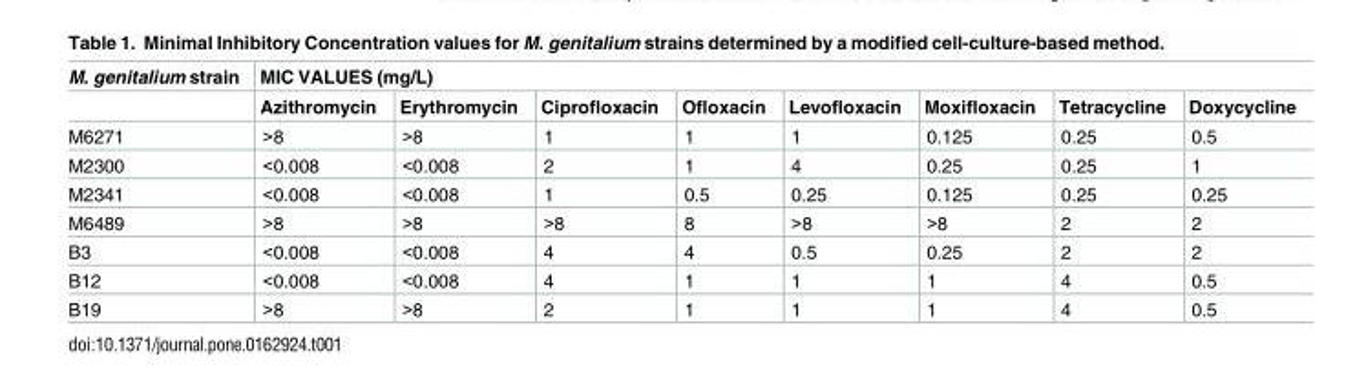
<table><thead><tr><td rowspan="2">M. genitalium strain</td><td colspan="8">MIC VALUES (mg/L)</td></tr><tr><td>Azithromycin</td><td>Erythromycin</td><td>Ciprofloxacin</td><td>Ofloxacin</td><td>Levofloxacin</td><td>Moxifloxacin</td><td>Tetracycline</td><td>Doxycycline</td></tr></thead><tbody><tr><td>M6271</td><td>&gt;8</td><td>&gt;8</td><td>1</td><td>1</td><td>1</td><td>0.125</td><td>0.25</td><td>0.5</td></tr><tr><td>M2300</td><td>&lt;0.008</td><td>&lt;0.008</td><td>2</td><td>1</td><td>4</td><td>0.25</td><td>0.25</td><td>1</td></tr><tr><td>M2341</td><td>&lt;0.008</td><td>&lt;0.008</td><td>1</td><td>0.5</td><td>0.25</td><td>0.125</td><td>0.25</td><td>0.25</td></tr><tr><td>M6489</td><td>&gt;8</td><td>&gt;8</td><td>&gt;8</td><td>8</td><td>&gt;8</td><td>&gt;8</td><td>2</td><td>2</td></tr><tr><td>B3</td><td>&lt;0.008</td><td>&lt;0.008</td><td>4</td><td>4</td><td>0.5</td><td>0.25</td><td>2</td><td>2</td></tr><tr><td>B12</td><td>&lt;0.008</td><td>&lt;0.008</td><td>4</td><td>1</td><td>1</td><td>1</td><td>4</td><td>0.5</td></tr><tr><td>B19</td><td>&gt;8</td><td>&gt;8</td><td>2</td><td>1</td><td>1</td><td>1</td><td>4</td><td>0.5</td></tr></tbody></table>